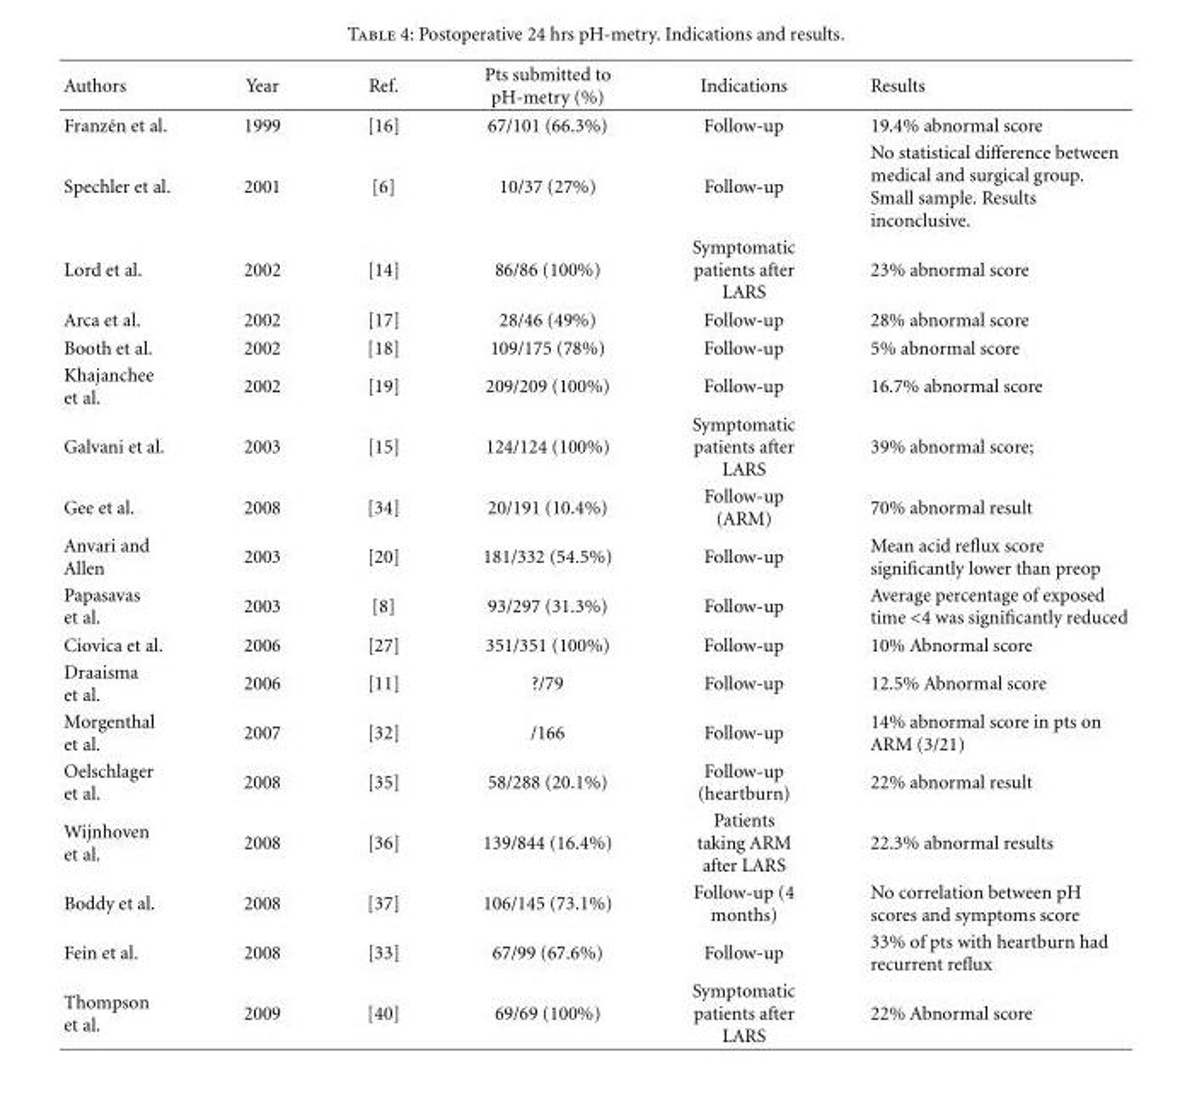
<table><thead><tr><td>Authors</td><td>Year</td><td>Ref.</td><td>Pts submitted to pH-metry (%)</td><td>Indications</td><td>Results</td></tr></thead><tbody><tr><td>Franz´en et al.</td><td>1999</td><td>[16]</td><td>67/101 (66.3%)</td><td>Follow-up</td><td>19.4% abnormal score</td></tr><tr><td>Spechler et al.</td><td>2001</td><td>[6]</td><td>10/37 (27%)</td><td>Follow-up</td><td>No statistical difference between medical and surgical group. Small sample. Results inconclusive.</td></tr><tr><td>Lord et al.</td><td>2002</td><td>[14]</td><td>86/86 (100%)</td><td>Symptomatic patients after LARS</td><td>23% abnormal score</td></tr><tr><td>Arca et al.</td><td>2002</td><td>[17]</td><td>28/46 (49%)</td><td>Follow-up</td><td>28% abnormal score</td></tr><tr><td>Booth et al.</td><td>2002</td><td>[18]</td><td>109/175 (78%)</td><td>Follow-up</td><td>5% abnormal score</td></tr><tr><td>Khajanchee et al.</td><td>2002</td><td>[19]</td><td>209/209 (100%)</td><td>Follow-up</td><td>16.7% abnormal score</td></tr><tr><td>Galvani et al.</td><td>2003</td><td>[15]</td><td>124/124 (100%)</td><td>Symptomatic patients after LARS</td><td>39% abnormal score;</td></tr><tr><td>Gee et al.</td><td>2008</td><td>[34]</td><td>20/191 (10.4%)</td><td>Follow-up (ARM)</td><td>70% abnormal result</td></tr><tr><td>Anvari and Allen</td><td>2003</td><td>[20]</td><td>181/332 (54.5%)</td><td>Follow-up</td><td>Mean acid reflux score significantly lower than preop</td></tr><tr><td>Papasavas et al.</td><td>2003</td><td>[8]</td><td>93/297 (31.3%)</td><td>Follow-up</td><td>Average percentage of exposed time &lt;4 was significantly reduced</td></tr><tr><td>Ciovica et al.</td><td>2006</td><td>[27]</td><td>351/351 (100%)</td><td>Follow-up</td><td>10% Abnormal score</td></tr><tr><td>Draaisma et al.</td><td>2006</td><td>[11]</td><td>?/79</td><td>Follow-up</td><td>12.5% Abnormal score</td></tr><tr><td>Morgenthal et al.</td><td>2007</td><td>[32]</td><td>/166</td><td>Follow-up</td><td>14% abnormal score in pts on ARM (3/21)</td></tr><tr><td>Oelschlager et al.</td><td>2008</td><td>[35]</td><td>58/288 (20.1%)</td><td>Follow-up (heartburn)</td><td>22% abnormal result</td></tr><tr><td>Wijnhoven et al.</td><td>2008</td><td>[36]</td><td>139/844 (16.4%)</td><td>Patients taking ARM after LARS</td><td>22.3% abnormal results</td></tr><tr><td>Boddy et al.</td><td>2008</td><td>[37]</td><td>106/145 (73.1%)</td><td>Follow-up (4 months)</td><td>No correlation between pH scores and symptoms score</td></tr><tr><td>Fein et al.</td><td>2008</td><td>[33]</td><td>67/99 (67.6%)</td><td>Follow-up</td><td>33% of pts with heartburn had recurrent reflux</td></tr><tr><td>Thompson et al.</td><td>2009</td><td>[40]</td><td>69/69 (100%)</td><td>Symptomatic patients after LARS</td><td>22% Abnormal score</td></tr></tbody></table>